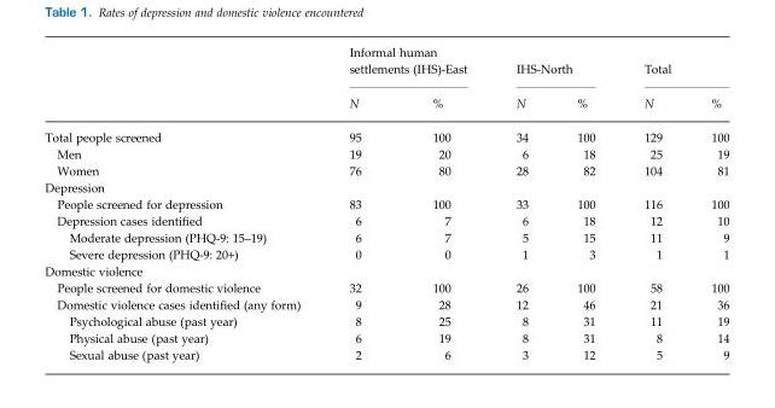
<table><thead><tr><td rowspan="2"></td><td colspan="2">Informal human settlements (IHS)-East</td><td colspan="2">IHS-North</td><td colspan="2">Total</td></tr><tr><td>N</td><td>%</td><td>N</td><td>%</td><td>N</td><td>%</td></tr></thead><tbody><tr><td>Total people screened</td><td>95</td><td>100</td><td>34</td><td>100</td><td>129</td><td>100</td></tr><tr><td>Men</td><td>19</td><td>20</td><td>6</td><td>18</td><td>25</td><td>19</td></tr><tr><td>Women</td><td>76</td><td>80</td><td>28</td><td>82</td><td>104</td><td>81</td></tr><tr><td colspan="7">Depression</td></tr><tr><td>People screened for depression</td><td>83</td><td>100</td><td>33</td><td>100</td><td>116</td><td>100</td></tr><tr><td>Depression cases identified</td><td>6</td><td>7</td><td>6</td><td>18</td><td>12</td><td>10</td></tr><tr><td>Moderate depression (PHQ-9: 15–19)</td><td>6</td><td>7</td><td>5</td><td>15</td><td>11</td><td>9</td></tr><tr><td>Severe depression (PHQ-9: 20+)</td><td>0</td><td>0</td><td>1</td><td>3</td><td>1</td><td>1</td></tr><tr><td colspan="7">Domestic violence</td></tr><tr><td>People screened for domestic violence</td><td>32</td><td>100</td><td>26</td><td>100</td><td>58</td><td>100</td></tr><tr><td>Domestic violence cases identified (any form)</td><td>9</td><td>28</td><td>12</td><td>46</td><td>21</td><td>36</td></tr><tr><td>Psychological abuse (past year)</td><td>8</td><td>25</td><td>8</td><td>31</td><td>11</td><td>19</td></tr><tr><td>Physical abuse (past year)</td><td>6</td><td>19</td><td>8</td><td>31</td><td>8</td><td>14</td></tr><tr><td>Sexual abuse (past year)</td><td>2</td><td>6</td><td>3</td><td>12</td><td>5</td><td>9</td></tr></tbody></table>